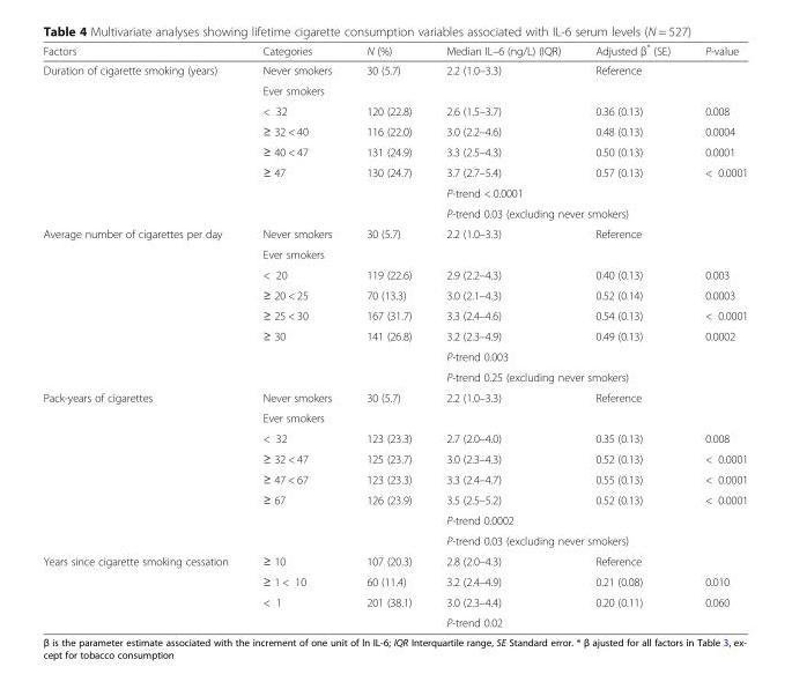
<table><thead><tr><td>Factors</td><td>Categories</td><td>N (%)</td><td>Median IL–6 (ng/L) (IQR)</td><td>Adjusted β* (SE)</td><td>P-value</td></tr></thead><tbody><tr><td rowspan="8">Duration of cigarette smoking (years)</td><td>Never smokers</td><td>30 (5.7)</td><td>2.2 (1.0–3.3)</td><td>Reference</td><td></td></tr><tr><td>Ever smokers</td><td></td><td></td><td></td><td></td></tr><tr><td>&lt; 32</td><td>120 (22.8)</td><td>2.6 (1.5–3.7)</td><td>0.36 (0.13)</td><td>0.008</td></tr><tr><td>≥ 32 &lt; 40</td><td>116 (22.0)</td><td>3.0 (2.2–4.6)</td><td>0.48 (0.13)</td><td>0.0004</td></tr><tr><td>≥ 40 &lt; 47</td><td>131 (24.9)</td><td>3.3 (2.5–4.3)</td><td>0.50 (0.13)</td><td>0.0001</td></tr><tr><td>≥ 47</td><td>130 (24.7)</td><td>3.7 (2.7–5.4)</td><td>0.57 (0.13)</td><td>&lt; 0.0001</td></tr><tr><td></td><td></td><td colspan="3">P-trend &lt; 0.0001</td></tr><tr><td></td><td></td><td colspan="3">P-trend 0.03 (excluding never smokers)</td></tr><tr><td rowspan="8">Average number of cigarettes per day</td><td>Never smokers</td><td>30 (5.7)</td><td>2.2 (1.0–3.3)</td><td>Reference</td><td></td></tr><tr><td>Ever smokers</td><td></td><td></td><td></td><td></td></tr><tr><td>&lt; 20</td><td>119 (22.6)</td><td>2.9 (2.2–4.3)</td><td>0.40 (0.13)</td><td>0.003</td></tr><tr><td>≥ 20 &lt; 25</td><td>70 (13.3)</td><td>3.0 (2.1–4.3)</td><td>0.52 (0.14)</td><td>0.0003</td></tr><tr><td>≥ 25 &lt; 30</td><td>167 (31.7)</td><td>3.3 (2.4–4.6)</td><td>0.54 (0.13)</td><td>&lt; 0.0001</td></tr><tr><td>≥ 30</td><td>141 (26.8)</td><td>3.2 (2.3–4.9)</td><td>0.49 (0.13)</td><td>0.0002</td></tr><tr><td></td><td></td><td colspan="3">P-trend 0.003</td></tr><tr><td></td><td></td><td colspan="3">P-trend 0.25 (excluding never smokers)</td></tr><tr><td rowspan="8">Pack-years of cigarettes</td><td>Never smokers</td><td>30 (5.7)</td><td>2.2 (1.0–3.3)</td><td>Reference</td><td></td></tr><tr><td>Ever smokers</td><td></td><td></td><td></td><td></td></tr><tr><td>&lt; 32</td><td>123 (23.3)</td><td>2.7 (2.0–4.0)</td><td>0.35 (0.13)</td><td>0.008</td></tr><tr><td>≥ 32 &lt; 47</td><td>125 (23.7)</td><td>3.0 (2.3–4.3)</td><td>0.52 (0.13)</td><td>&lt; 0.0001</td></tr><tr><td>≥ 47 &lt; 67</td><td>123 (23.3)</td><td>3.3 (2.4–4.7)</td><td>0.55 (0.13)</td><td>&lt; 0.0001</td></tr><tr><td>≥ 67</td><td>126 (23.9)</td><td>3.5 (2.5–5.2)</td><td>0.52 (0.13)</td><td>&lt; 0.0001</td></tr><tr><td></td><td></td><td colspan="3">P-trend 0.0002</td></tr><tr><td></td><td></td><td colspan="3">P-trend 0.03 (excluding never smokers)</td></tr><tr><td rowspan="4">Years since cigarette smoking cessation</td><td>≥ 10</td><td>107 (20.3)</td><td>2.8 (2.0–4.3)</td><td>Reference</td><td></td></tr><tr><td>≥ 1 &lt; 10</td><td>60 (11.4)</td><td>3.2 (2.4–4.9)</td><td>0.21 (0.08)</td><td>0.010</td></tr><tr><td>&lt; 1</td><td>201 (38.1)</td><td>3.0 (2.3–4.4)</td><td>0.20 (0.11)</td><td>0.060</td></tr><tr><td></td><td></td><td colspan="3">P-trend 0.02</td></tr></tbody></table>